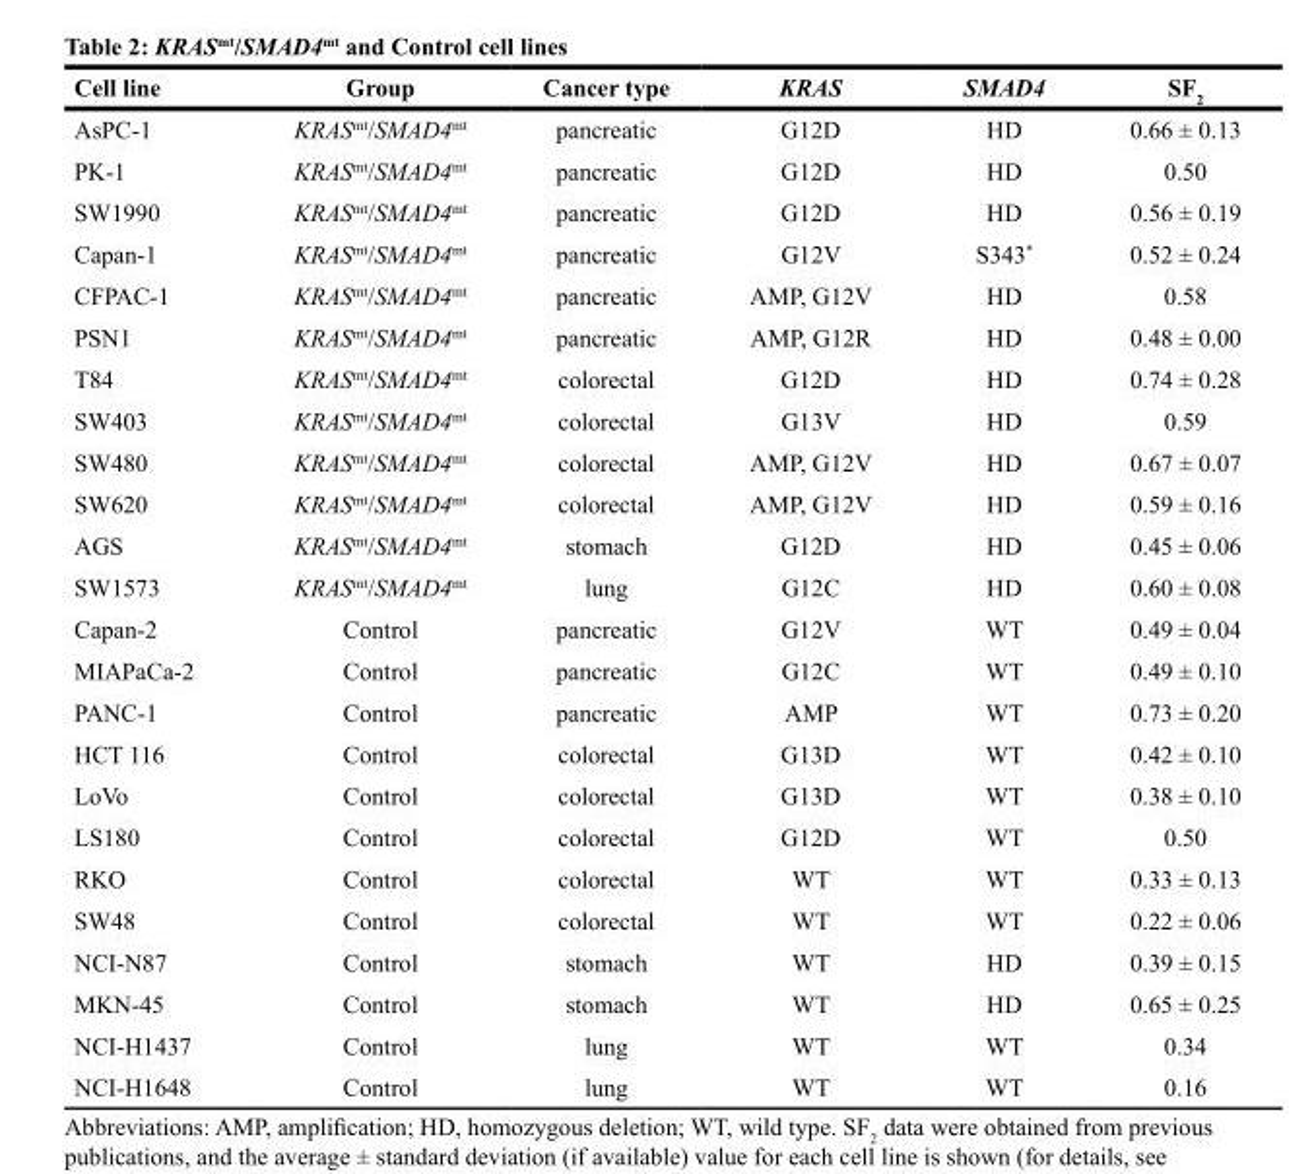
<table><thead><tr><td>Cell line</td><td>Group</td><td>Cancer type</td><td>KRAS</td><td>SMAD4</td><td>SF<sub>2</sub></td></tr></thead><tbody><tr><td>AsPC-1</td><td>KRAS<sup>mt</sup>/SMAD4<sup>mt</sup></td><td>pancreatic</td><td>G12D</td><td>HD</td><td>0.66 ± 0.13</td></tr><tr><td>PK-1</td><td>KRAS<sup>mt</sup>/SMAD4<sup>mt</sup></td><td>pancreatic</td><td>G12D</td><td>HD</td><td>0.50</td></tr><tr><td>SW1990</td><td>KRAS<sup>mt</sup>/SMAD4<sup>mt</sup></td><td>pancreatic</td><td>G12D</td><td>HD</td><td>0.56 ± 0.19</td></tr><tr><td>Capan-1</td><td>KRAS<sup>mt</sup>/SMAD4<sup>mt</sup></td><td>pancreatic</td><td>G12V</td><td>S343*</td><td>0.52 ± 0.24</td></tr><tr><td>CFPAC-1</td><td>KRAS<sup>mt</sup>/SMAD4<sup>mt</sup></td><td>pancreatic</td><td>AMP, G12V</td><td>HD</td><td>0.58</td></tr><tr><td>PSN1</td><td>KRAS<sup>mt</sup>/SMAD4<sup>mt</sup></td><td>pancreatic</td><td>AMP, G12R</td><td>HD</td><td>0.48 ± 0.00</td></tr><tr><td>T84</td><td>KRAS<sup>mt</sup>/SMAD4<sup>mt</sup></td><td>colorectal</td><td>G12D</td><td>HD</td><td>0.74 ± 0.28</td></tr><tr><td>SW403</td><td>KRAS<sup>mt</sup>/SMAD4<sup>mt</sup></td><td>colorectal</td><td>G13V</td><td>HD</td><td>0.59</td></tr><tr><td>SW480</td><td>KRAS<sup>mt</sup>/SMAD4<sup>mt</sup></td><td>colorectal</td><td>AMP, G12V</td><td>HD</td><td>0.67 ± 0.07</td></tr><tr><td>SW620</td><td>KRAS<sup>mt</sup>/SMAD4<sup>mt</sup></td><td>colorectal</td><td>AMP, G12V</td><td>HD</td><td>0.59 ± 0.16</td></tr><tr><td>AGS</td><td>KRAS<sup>mt</sup>/SMAD4<sup>mt</sup></td><td>stomach</td><td>G12D</td><td>HD</td><td>0.45 ± 0.06</td></tr><tr><td>SW1573</td><td>KRAS<sup>mt</sup>/SMAD4<sup>mt</sup></td><td>lung</td><td>G12C</td><td>HD</td><td>0.60 ± 0.08</td></tr><tr><td>Capan-2</td><td>Control</td><td>pancreatic</td><td>G12V</td><td>WT</td><td>0.49 ± 0.04</td></tr><tr><td>MIAPaCa-2</td><td>Control</td><td>pancreatic</td><td>G12C</td><td>WT</td><td>0.49 ± 0.10</td></tr><tr><td>PANC-1</td><td>Control</td><td>pancreatic</td><td>AMP</td><td>WT</td><td>0.73 ± 0.20</td></tr><tr><td>HCT 116</td><td>Control</td><td>colorectal</td><td>G13D</td><td>WT</td><td>0.42 ± 0.10</td></tr><tr><td>LoVo</td><td>Control</td><td>colorectal</td><td>G13D</td><td>WT</td><td>0.38 ± 0.10</td></tr><tr><td>LS180</td><td>Control</td><td>colorectal</td><td>G12D</td><td>WT</td><td>0.50</td></tr><tr><td>RKO</td><td>Control</td><td>colorectal</td><td>WT</td><td>WT</td><td>0.33 ± 0.13</td></tr><tr><td>SW48</td><td>Control</td><td>colorectal</td><td>WT</td><td>WT</td><td>0.22 ± 0.06</td></tr><tr><td>NCI-N87</td><td>Control</td><td>stomach</td><td>WT</td><td>HD</td><td>0.39 ± 0.15</td></tr><tr><td>MKN-45</td><td>Control</td><td>stomach</td><td>WT</td><td>HD</td><td>0.65 ± 0.25</td></tr><tr><td>NCI-H1437</td><td>Control</td><td>lung</td><td>WT</td><td>WT</td><td>0.34</td></tr><tr><td>NCI-H1648</td><td>Control</td><td>lung</td><td>WT</td><td>WT</td><td>0.16</td></tr></tbody></table>